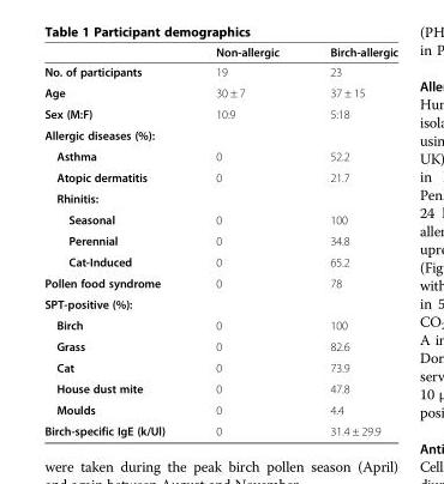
<table><thead><tr><td></td><td>Non-allergic</td><td>Birch-allergic</td></tr></thead><tbody><tr><td>No. of participants</td><td>19</td><td>23</td></tr><tr><td>Age</td><td>30 ± 7</td><td>37 ± 15</td></tr><tr><td>Sex (M:F)</td><td>10:9</td><td>5:18</td></tr><tr><td colspan="3">Allergic diseases (%):</td></tr><tr><td>Asthma</td><td>0</td><td>52.2</td></tr><tr><td>Atopic dermatitis</td><td>0</td><td>21.7</td></tr><tr><td colspan="3">Rhinitis:</td></tr><tr><td>Seasonal</td><td>0</td><td>100</td></tr><tr><td>Perennial</td><td>0</td><td>34.8</td></tr><tr><td>Cat-Induced</td><td>0</td><td>65.2</td></tr><tr><td>Pollen food syndrome</td><td>0</td><td>78</td></tr><tr><td colspan="3">SPT-positive (%):</td></tr><tr><td>Birch</td><td>0</td><td>100</td></tr><tr><td>Grass</td><td>0</td><td>82.6</td></tr><tr><td>Cat</td><td>0</td><td>73.9</td></tr><tr><td>House dust mite</td><td>0</td><td>47.8</td></tr><tr><td>Moulds</td><td>0</td><td>4.4</td></tr><tr><td>Birch-specific IgE (k/Ul)</td><td>0</td><td>31.4 ± 29.9</td></tr></tbody></table>